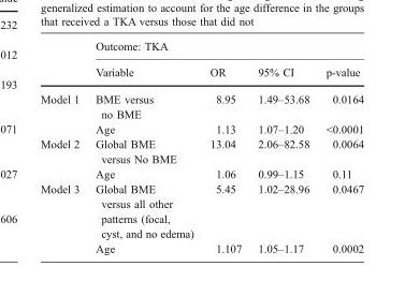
<table><thead><tr><td rowspan="2"></td><td colspan="4">Outcome: TKA</td></tr><tr><td>Variable</td><td>OR</td><td>95% CI</td><td>p-value</td></tr></thead><tbody><tr><td rowspan="2">Model 1</td><td>BME versus no BME</td><td>8.95</td><td>1.49–53.68</td><td>0.0164</td></tr><tr><td>Age</td><td>1.13</td><td>1.07–1.20</td><td>&lt;0.0001</td></tr><tr><td rowspan="2">Model 2</td><td>Global BME versus No BME</td><td>13.04</td><td>2.06–82.58</td><td>0.0064</td></tr><tr><td>Age</td><td>1.06</td><td>0.99–1.15</td><td>0.11</td></tr><tr><td rowspan="2">Model 3</td><td>Global BME versus all other patterns (focal, cyst, and no edema)</td><td>5.45</td><td>1.02–28.96</td><td>0.0467</td></tr><tr><td>Age</td><td>1.107</td><td>1.05–1.17</td><td>0.0002</td></tr></tbody></table>